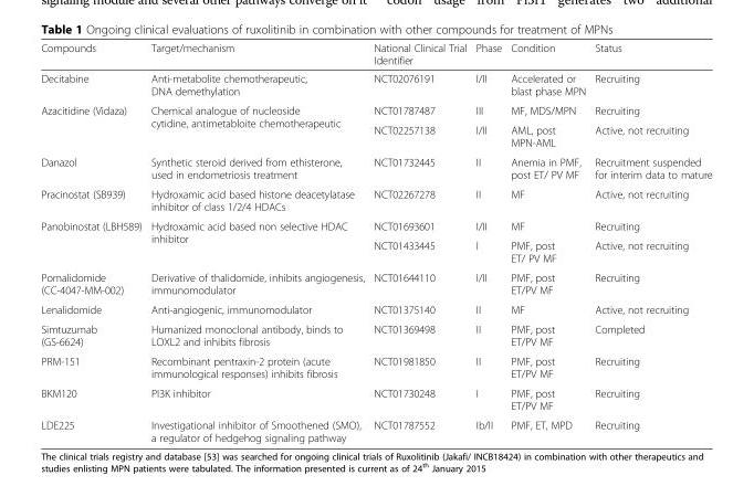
<table><thead><tr><td>Compounds</td><td>Target/mechanism</td><td>National Clinical Trial Identifier</td><td>Phase</td><td>Condition</td><td>Status</td></tr></thead><tbody><tr><td>Decitabine</td><td>Anti-metabolite chemotherapeutic, DNA demethylation</td><td>NCT02076191</td><td>I/II</td><td>Accelerated or blast phase MPN</td><td>Recruiting</td></tr><tr><td rowspan="2">Azacitidine (Vidaza)</td><td rowspan="2">Chemical analogue of nucleoside cytidine, antimetabloite chemotherapeutic</td><td>NCT01787487</td><td>III</td><td>MF, MDS/MPN</td><td>Recruiting</td></tr><tr><td>NCT02257138</td><td>I/II</td><td>AML, post MPN-AML</td><td>Active, not recruiting</td></tr><tr><td>Danazol</td><td>Synthetic steroid derived from ethisterone, used in endometriosis treatment</td><td>NCT01732445</td><td>II</td><td>Anemia in PMF, post ET/ PV MF</td><td>Recruitment suspended for interim data to mature</td></tr><tr><td>Pracinostat (SB939)</td><td>Hydroxamic acid based histone deacetylatase inhibitor of class 1/2/4 HDACs</td><td>NCT02267278</td><td>II</td><td>MF</td><td>Active, not recruiting</td></tr><tr><td rowspan="2">Panobinostat (LBH589)</td><td rowspan="2">Hydroxamic acid based non selective HDAC inhibitor</td><td>NCT01693601</td><td>I/II</td><td>MF</td><td>Recruiting</td></tr><tr><td>NCT01433445</td><td>I</td><td>PMF, post ET/ PV MF</td><td>Active, not recruiting</td></tr><tr><td>Pomalidomide (CC-4047-MM-002)</td><td>Derivative of thalidomide, inhibits angiogenesis, immunomodulator</td><td>NCT01644110</td><td>I/II</td><td>PMF, post ET/PV MF</td><td>Recruiting</td></tr><tr><td>Lenalidomide</td><td>Anti-angiogenic, immunomodulator</td><td>NCT01375140</td><td>II</td><td>MF</td><td>Active, not recruiting</td></tr><tr><td>Simtuzumab (GS-6624)</td><td>Humanized monoclonal antibody, binds to LOXL2 and inhibits fibrosis</td><td>NCT01369498</td><td>II</td><td>PMF, post ET/PV MF</td><td>Completed</td></tr><tr><td>PRM-151</td><td>Recombinant pentraxin-2 protein (acute immunological responses) inhibits fibrosis</td><td>NCT01981850</td><td>II</td><td>PMF, post ET/PV MF</td><td>Recruiting</td></tr><tr><td>BKM120</td><td>PI3K inhibitor</td><td>NCT01730248</td><td>I</td><td>PMF, post ET/PV MF</td><td>Recruiting</td></tr><tr><td>LDE225</td><td>Investigational inhibitor of Smoothened (SMO), a regulator of hedgehog signaling pathway</td><td>NCT01787552</td><td>Ib/II</td><td>PMF, ET, MPD</td><td>Recruiting</td></tr></tbody></table>